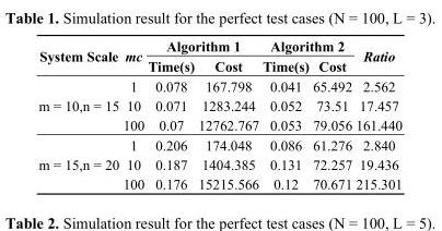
<table><thead><tr><td rowspan="2">System Scale</td><td rowspan="2">mc</td><td colspan="2">Algorithm 1</td><td colspan="2">Algorithm 2</td><td rowspan="2">Ratio</td></tr><tr><td>Time(s)</td><td>Cost</td><td>Time(s)</td><td>Cost</td></tr></thead><tbody><tr><td rowspan="3">m = 10,n = 15</td><td>1</td><td>0.078</td><td>167.798</td><td>0.041</td><td>65.492</td><td>2.562</td></tr><tr><td>10</td><td>0.071</td><td>1283.244</td><td>0.052</td><td>73.51</td><td>17.457</td></tr><tr><td>100</td><td>0.07</td><td>12762.767</td><td>0.053</td><td>79.056</td><td>161.440</td></tr><tr><td rowspan="3">m = 15,n = 20</td><td>1</td><td>0.206</td><td>174.048</td><td>0.086</td><td>61.276</td><td>2.840</td></tr><tr><td>10</td><td>0.187</td><td>1404.385</td><td>0.131</td><td>72.257</td><td>19.436</td></tr><tr><td>100</td><td>0.176</td><td>15215.566</td><td>0.12</td><td>70.671</td><td>215.301</td></tr></tbody></table>